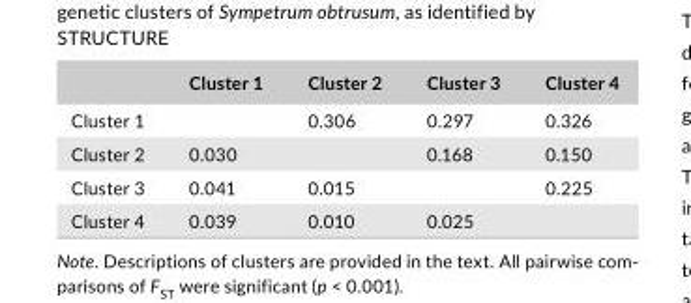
<table><thead><tr><td></td><td>Cluster 1</td><td>Cluster 2</td><td>Cluster 3</td><td>Cluster 4</td></tr></thead><tbody><tr><td>Cluster 1</td><td></td><td>0.306</td><td>0.297</td><td>0.326</td></tr><tr><td>Cluster 2</td><td>0.030</td><td></td><td>0.168</td><td>0.150</td></tr><tr><td>Cluster 3</td><td>0.041</td><td>0.015</td><td></td><td>0.225</td></tr><tr><td>Cluster 4</td><td>0.039</td><td>0.010</td><td>0.025</td><td></td></tr></tbody></table>